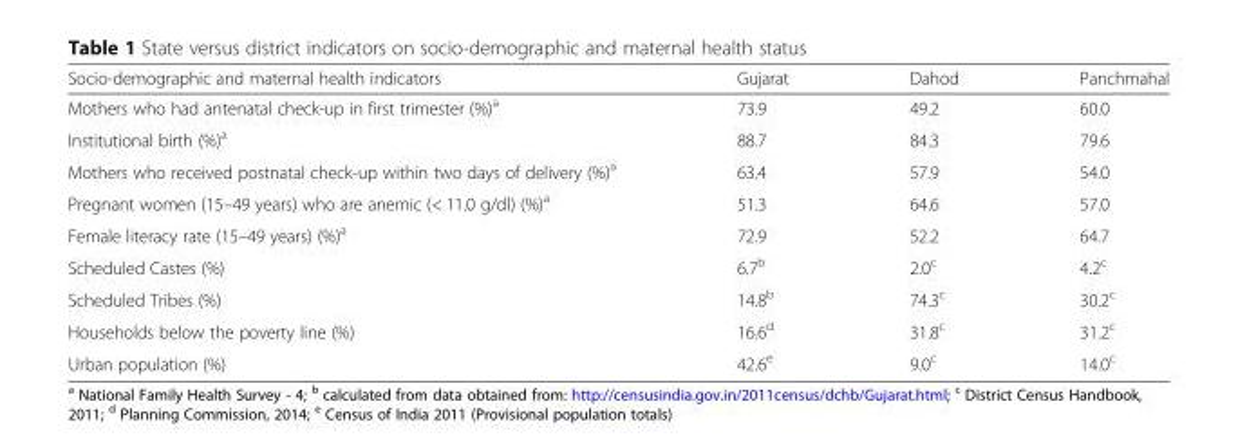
<table><thead><tr><td>Socio-demographic and maternal health indicators</td><td>Gujarat</td><td>Dahod</td><td>Panchmahal</td></tr></thead><tbody><tr><td>Mothers who had antenatal check-up in first trimester (%)<sup>a</sup></td><td>73.9</td><td>49.2</td><td>60.0</td></tr><tr><td>Institutional birth (%)<sup>a</sup></td><td>88.7</td><td>84.3</td><td>79.6</td></tr><tr><td>Mothers who received postnatal check-up within two days of delivery (%)<sup>a</sup></td><td>63.4</td><td>57.9</td><td>54.0</td></tr><tr><td>Pregnant women (15–49 years) who are anemic (&lt; 11.0 g/dl) (%)<sup>a</sup></td><td>51.3</td><td>64.6</td><td>57.0</td></tr><tr><td>Female literacy rate (15–49 years) (%)<sup>a</sup></td><td>72.9</td><td>52.2</td><td>64.7</td></tr><tr><td>Scheduled Castes (%)</td><td>6.7<sup>b</sup></td><td>2.0<sup>c</sup></td><td>4.2<sup>c</sup></td></tr><tr><td>Scheduled Tribes (%)</td><td>14.8<sup>b</sup></td><td>74.3<sup>c</sup></td><td>30.2<sup>c</sup></td></tr><tr><td>Households below the poverty line (%)</td><td>16.6<sup>d</sup></td><td>31.8<sup>c</sup></td><td>31.2<sup>c</sup></td></tr><tr><td>Urban population (%)</td><td>42.6<sup>e</sup></td><td>9.0<sup>c</sup></td><td>14.0<sup>c</sup></td></tr></tbody></table>